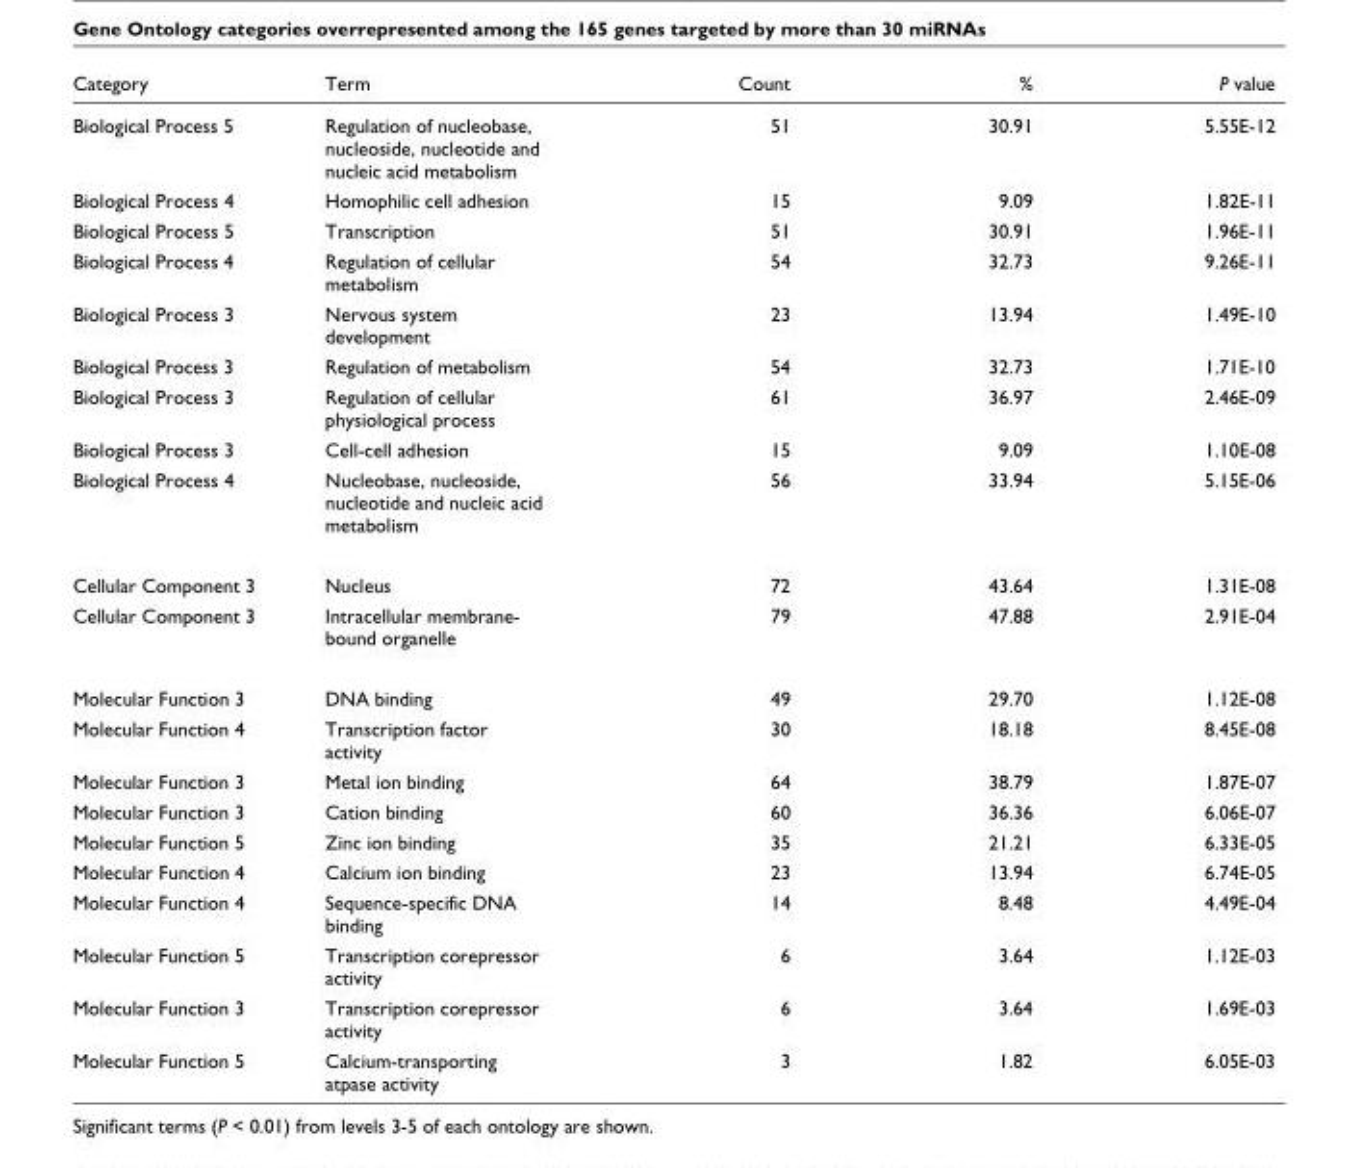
<table><thead><tr><td>Category</td><td>Term</td><td>Count</td><td>%</td><td>P value</td></tr></thead><tbody><tr><td>Biological Process 5</td><td>Regulation of nucleobase, nucleoside, nucleotide and nucleic acid metabolism</td><td>51</td><td>30.91</td><td>5.55E-12</td></tr><tr><td>Biological Process 4</td><td>Homophilic cell adhesion</td><td>15</td><td>9.09</td><td>1.82E-11</td></tr><tr><td>Biological Process 5</td><td>Transcription</td><td>51</td><td>30.91</td><td>1.96E-11</td></tr><tr><td>Biological Process 4</td><td>Regulation of cellular metabolism</td><td>54</td><td>32.73</td><td>9.26E-11</td></tr><tr><td>Biological Process 3</td><td>Nervous system development</td><td>23</td><td>13.94</td><td>1.49E-10</td></tr><tr><td>Biological Process 3</td><td>Regulation of metabolism</td><td>54</td><td>32.73</td><td>1.71E-10</td></tr><tr><td>Biological Process 3</td><td>Regulation of cellular physiological process</td><td>61</td><td>36.97</td><td>2.46E-09</td></tr><tr><td>Biological Process 3</td><td>Cell-cell adhesion</td><td>15</td><td>9.09</td><td>1.10E-08</td></tr><tr><td>Biological Process 4</td><td>Nucleobase, nucleoside, nucleotide and nucleic acid metabolism</td><td>56</td><td>33.94</td><td>5.15E-06</td></tr><tr><td>Cellular Component 3</td><td>Nucleus</td><td>72</td><td>43.64</td><td>1.31E-08</td></tr><tr><td>Cellular Component 3</td><td>Intracellular membrane- bound organelle</td><td>79</td><td>47.88</td><td>2.91E-04</td></tr><tr><td>Molecular Function 3</td><td>DNA binding</td><td>49</td><td>29.70</td><td>1.12E-08</td></tr><tr><td>Molecular Function 4</td><td>Transcription factor activity</td><td>30</td><td>18.18</td><td>8.45E-08</td></tr><tr><td>Molecular Function 3</td><td>Metal ion binding</td><td>64</td><td>38.79</td><td>1.87E-07</td></tr><tr><td>Molecular Function 3</td><td>Cation binding</td><td>60</td><td>36.36</td><td>6.06E-07</td></tr><tr><td>Molecular Function 5</td><td>Zinc ion binding</td><td>35</td><td>21.21</td><td>6.33E-05</td></tr><tr><td>Molecular Function 4</td><td>Calcium ion binding</td><td>23</td><td>13.94</td><td>6.74E-05</td></tr><tr><td>Molecular Function 4</td><td>Sequence-specific DNA binding</td><td>14</td><td>8.48</td><td>4.49E-04</td></tr><tr><td>Molecular Function 5</td><td>Transcription corepressor activity</td><td>6</td><td>3.64</td><td>1.12E-03</td></tr><tr><td>Molecular Function 3</td><td>Transcription corepressor activity</td><td>6</td><td>3.64</td><td>1.69E-03</td></tr><tr><td>Molecular Function 5</td><td>Calcium-transporting atpase activity</td><td>3</td><td>1.82</td><td>6.05E-03</td></tr></tbody></table>